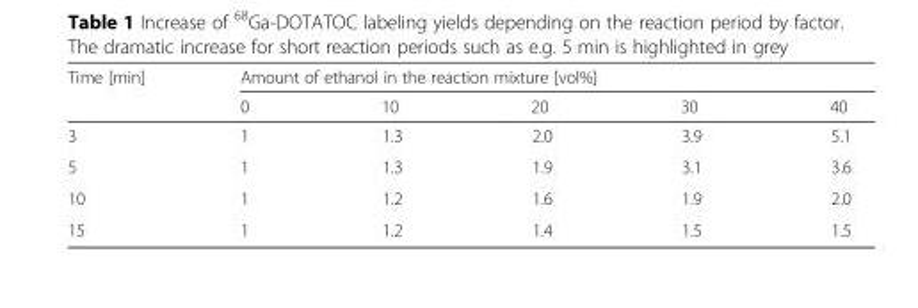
<table><thead><tr><td rowspan="2">Time [min]</td><td colspan="5">Amount of ethanol in the reaction mixture [vol%]</td></tr><tr><td>0</td><td>10</td><td>20</td><td>30</td><td>40</td></tr></thead><tbody><tr><td>3</td><td>1</td><td>1.3</td><td>2.0</td><td>3.9</td><td>5.1</td></tr><tr><td>5</td><td>1</td><td>1.3</td><td>1.9</td><td>3.1</td><td>3.6</td></tr><tr><td>10</td><td>1</td><td>1.2</td><td>1.6</td><td>1.9</td><td>2.0</td></tr><tr><td>15</td><td>1</td><td>1.2</td><td>1.4</td><td>1.5</td><td>1.5</td></tr></tbody></table>